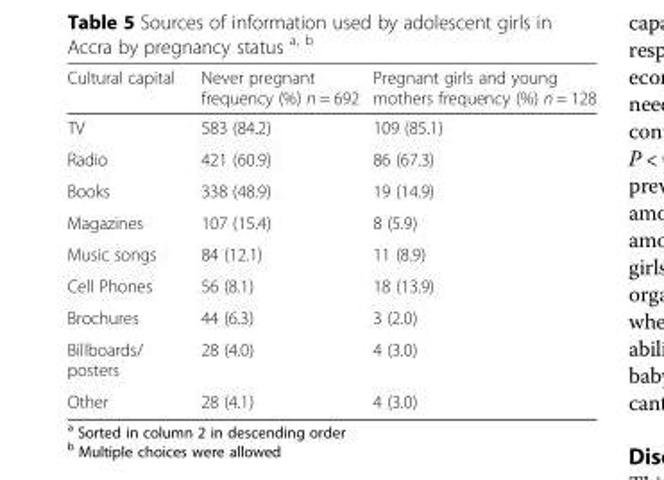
<table><thead><tr><td>Cultural capital</td><td>Never pregnant frequency (%) n = 692</td><td>Pregnant girls and young mothers frequency (%) n = 128</td></tr></thead><tbody><tr><td>TV</td><td>583 (84.2)</td><td>109 (85.1)</td></tr><tr><td>Radio</td><td>421 (60.9)</td><td>86 (67.3)</td></tr><tr><td>Books</td><td>338 (48.9)</td><td>19 (14.9)</td></tr><tr><td>Magazines</td><td>107 (15.4)</td><td>8 (5.9)</td></tr><tr><td>Music songs</td><td>84 (12.1)</td><td>11 (8.9)</td></tr><tr><td>Cell Phones</td><td>56 (8.1)</td><td>18 (13.9)</td></tr><tr><td>Brochures</td><td>44 (6.3)</td><td>3 (2.0)</td></tr><tr><td>Billboards/ posters</td><td>28 (4.0)</td><td>4 (3.0)</td></tr><tr><td>Other</td><td>28 (4.1)</td><td>4 (3.0)</td></tr></tbody></table>